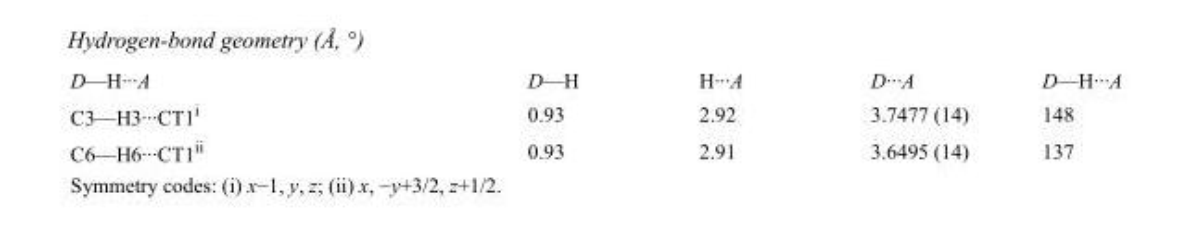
<table><tbody><tr><td>D—H···A</td><td>D—H</td><td>H···A</td><td>D···A</td><td>D—H···A</td></tr><tr><td>C3—H3···CT1<sup>i</sup></td><td>0.93</td><td>2.92</td><td>3.7477 (14)</td><td>148</td></tr><tr><td>C6—H6···CT1<sup>ii</sup></td><td>0.93</td><td>2.91</td><td>3.6495 (14)</td><td>137</td></tr></tbody></table>